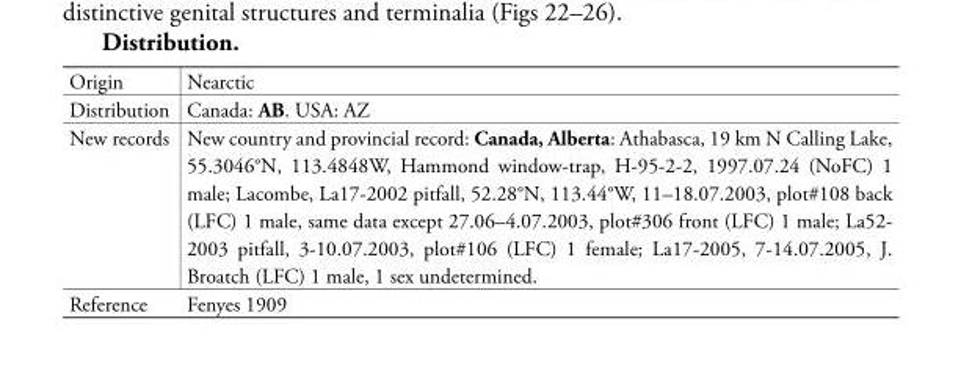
<table><tbody><tr><td>Origin</td><td>Nearctic</td></tr><tr><td>Distribution</td><td>Canada: AB. USA: AZ</td></tr><tr><td>New records</td><td>New country and provincial record: Canada, Alberta: Athabasca, 19 km N Calling Lake, 55.3046°N, 113.4848W, Hammond window-trap, H-95-2-2, 1997.07.24 (NoFC) 1 male; Lacombe, La17-2002 pitfall, 52.28°N, 113.44°W, 11–18.07.2003, plot#108 back (LFC) 1 male, same data except 27.06–4.07.2003, plot#306 front (LFC) 1 male; La52- 2003 pitfall, 3-10.07.2003, plot#106 (LFC) 1 female; La17-2005, 7-14.07.2005, J. Broatch (LFC) 1 male, 1 sex undetermined.</td></tr><tr><td>Reference</td><td>Fenyes 1909</td></tr></tbody></table>